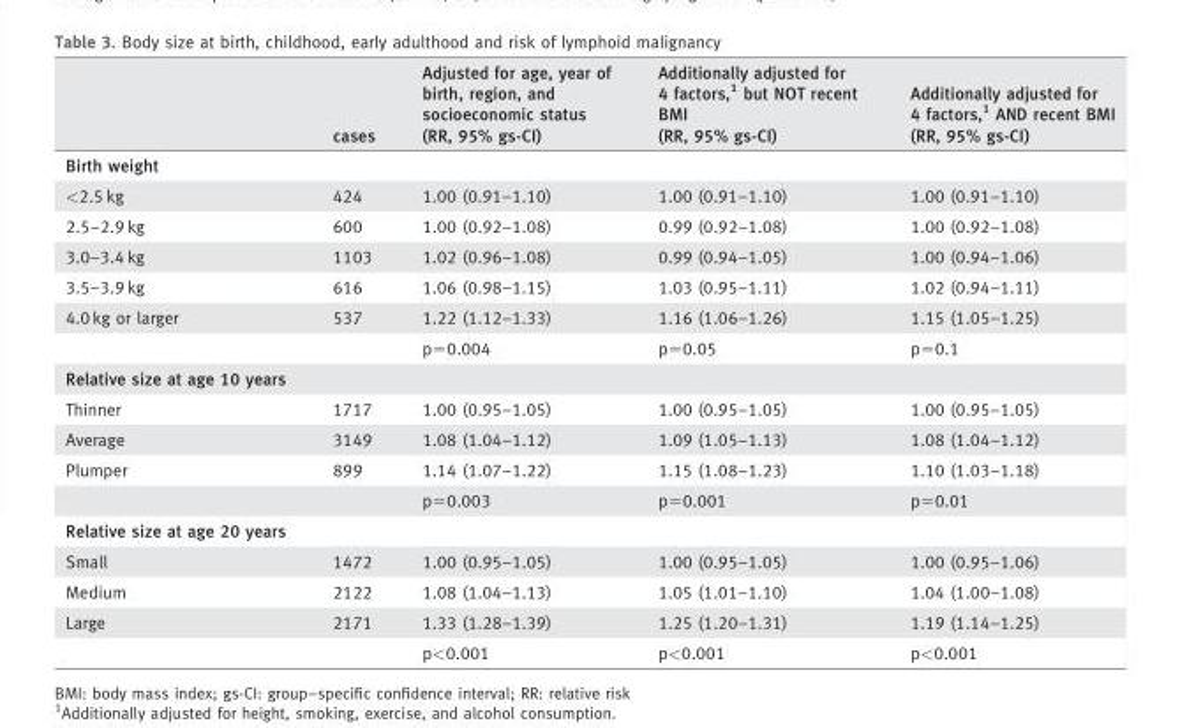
<table><thead><tr><td rowspan="2"></td><td rowspan="2">cases</td><td rowspan="2">Adjusted for age, year of birth, region, and socioeconomic status (RR, 95% gs-CI)</td><td rowspan="2">Additionally adjusted for 4 factors,1 but NOT recent BMI (RR, 95% gs-CI)</td><td rowspan="2">Additionally adjusted for 4 factors,1 AND recent BMI (RR, 95% gs-CI)</td></tr><tr></tr></thead><tbody><tr><td colspan="5">Birth weight</td></tr><tr><td>&lt;2.5 kg</td><td>424</td><td>1.00 (0.91–1.10)</td><td>1.00 (0.91–1.10)</td><td>1.00 (0.91–1.10)</td></tr><tr><td>2.5–2.9 kg</td><td>600</td><td>1.00 (0.92–1.08)</td><td>0.99 (0.92–1.08)</td><td>1.00 (0.92–1.08)</td></tr><tr><td>3.0–3.4 kg</td><td>1103</td><td>1.02 (0.96–1.08)</td><td>0.99 (0.94–1.05)</td><td>1.00 (0.94–1.06)</td></tr><tr><td>3.5–3.9 kg</td><td>616</td><td>1.06 (0.98–1.15)</td><td>1.03 (0.95–1.11)</td><td>1.02 (0.94–1.11)</td></tr><tr><td rowspan="2">4.0 kg or larger</td><td>537</td><td>1.22 (1.12–1.33)</td><td>1.16 (1.06–1.26)</td><td>1.15 (1.05–1.25)</td></tr><tr><td></td><td>p=0.004</td><td>p=0.05</td><td>p=0.1</td></tr><tr><td colspan="5">Relative size at age 10 years</td></tr><tr><td>Thinner</td><td>1717</td><td>1.00 (0.95–1.05)</td><td>1.00 (0.95–1.05)</td><td>1.00 (0.95–1.05)</td></tr><tr><td>Average</td><td>3149</td><td>1.08 (1.04–1.12)</td><td>1.09 (1.05–1.13)</td><td>1.08 (1.04–1.12)</td></tr><tr><td rowspan="2">Plumper</td><td>899</td><td>1.14 (1.07–1.22)</td><td>1.15 (1.08–1.23)</td><td>1.10 (1.03–1.18)</td></tr><tr><td></td><td>p=0.003</td><td>p=0.001</td><td>p=0.01</td></tr><tr><td colspan="5">Relative size at age 20 years</td></tr><tr><td>Small</td><td>1472</td><td>1.00 (0.95–1.05)</td><td>1.00 (0.95–1.05)</td><td>1.00 (0.95–1.06)</td></tr><tr><td>Medium</td><td>2122</td><td>1.08 (1.04–1.13)</td><td>1.05 (1.01–1.10)</td><td>1.04 (1.00–1.08)</td></tr><tr><td rowspan="2">Large</td><td>2171</td><td>1.33 (1.28–1.39)</td><td>1.25 (1.20–1.31)</td><td>1.19 (1.14–1.25)</td></tr><tr><td></td><td>p&lt;0.001</td><td>p&lt;0.001</td><td>p&lt;0.001</td></tr></tbody></table>